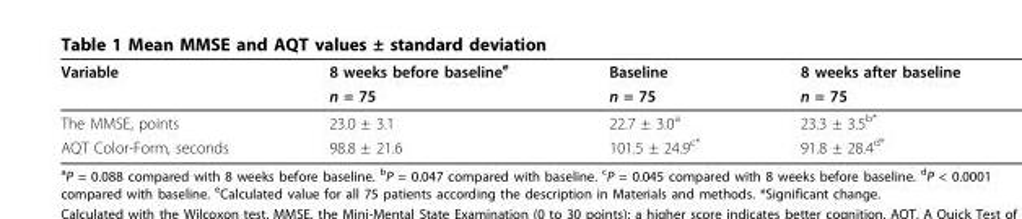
<table><thead><tr><td rowspan="2">Variable</td><td rowspan="2">8 weeks before baseline<sup>e</sup> n = 75</td><td rowspan="2">Baseline n = 75</td><td rowspan="2">8 weeks after baseline n = 75</td></tr><tr></tr></thead><tbody><tr><td>The MMSE, points</td><td>23.0 ± 3.1</td><td>22.7 ± 3.0<sup>a</sup></td><td>23.3 ± 3.5<sup>b*</sup></td></tr><tr><td>AQT Color-Form, seconds</td><td>98.8 ± 21.6</td><td>101.5 ± 24.9<sup>c*</sup></td><td>91.8 ± 28.4<sup>d*</sup></td></tr></tbody></table>